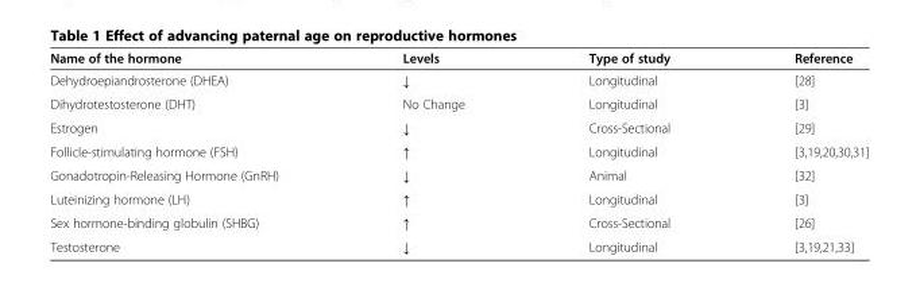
<table><thead><tr><td>Name of the hormone</td><td>Levels</td><td>Type of study</td><td>Reference</td></tr></thead><tbody><tr><td>Dehydroepiandrosterone (DHEA)</td><td>↓</td><td>Longitudinal</td><td>[28]</td></tr><tr><td>Dihydrotestosterone (DHT)</td><td>No Change</td><td>Longitudinal</td><td>[3]</td></tr><tr><td>Estrogen</td><td>↓</td><td>Cross-Sectional</td><td>[29]</td></tr><tr><td>Follicle-stimulating hormone (FSH)</td><td>↑</td><td>Longitudinal</td><td>[3,19,20,30,31]</td></tr><tr><td>Gonadotropin-Releasing Hormone (GnRH)</td><td>↓</td><td>Animal</td><td>[32]</td></tr><tr><td>Luteinizing hormone (LH)</td><td>↑</td><td>Longitudinal</td><td>[3]</td></tr><tr><td>Sex hormone-binding globulin (SHBG)</td><td>↑</td><td>Cross-Sectional</td><td>[26]</td></tr><tr><td>Testosterone</td><td>↓</td><td>Longitudinal</td><td>[3,19,21,33]</td></tr></tbody></table>